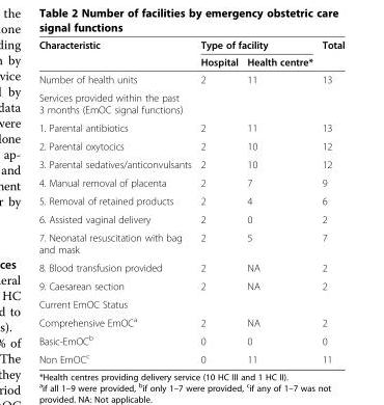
<table><thead><tr><td rowspan="2">Characteristic</td><td colspan="2">Type of facility</td><td rowspan="2">Total</td></tr><tr><td>Hospital</td><td>Health centre*</td></tr></thead><tbody><tr><td>Number of health units</td><td>2</td><td>11</td><td>13</td></tr><tr><td colspan="4">Services provided within the past 3 months (EmOC signal functions)</td></tr><tr><td>1. Parental antibiotics</td><td>2</td><td>11</td><td>13</td></tr><tr><td>2. Parental oxytocics</td><td>2</td><td>10</td><td>12</td></tr><tr><td>3. Parental sedatives/anticonvulsants</td><td>2</td><td>10</td><td>12</td></tr><tr><td>4. Manual removal of placenta</td><td>2</td><td>7</td><td>9</td></tr><tr><td>5. Removal of retained products</td><td>2</td><td>4</td><td>6</td></tr><tr><td>6. Assisted vaginal delivery</td><td>2</td><td>0</td><td>2</td></tr><tr><td>7. Neonatal resuscitation with bag and mask</td><td>2</td><td>5</td><td>7</td></tr><tr><td>8. Blood transfusion provided</td><td>2</td><td>NA</td><td>2</td></tr><tr><td>9. Caesarean section</td><td>2</td><td>NA</td><td>2</td></tr><tr><td colspan="4">Current EmOC Status</td></tr><tr><td>Comprehensive EmOC<sup>a</sup></td><td>2</td><td>NA</td><td>2</td></tr><tr><td>Basic-EmOC<sup>b</sup></td><td>0</td><td>0</td><td>0</td></tr><tr><td>Non EmOC<sup>c</sup></td><td>0</td><td>11</td><td>11</td></tr></tbody></table>